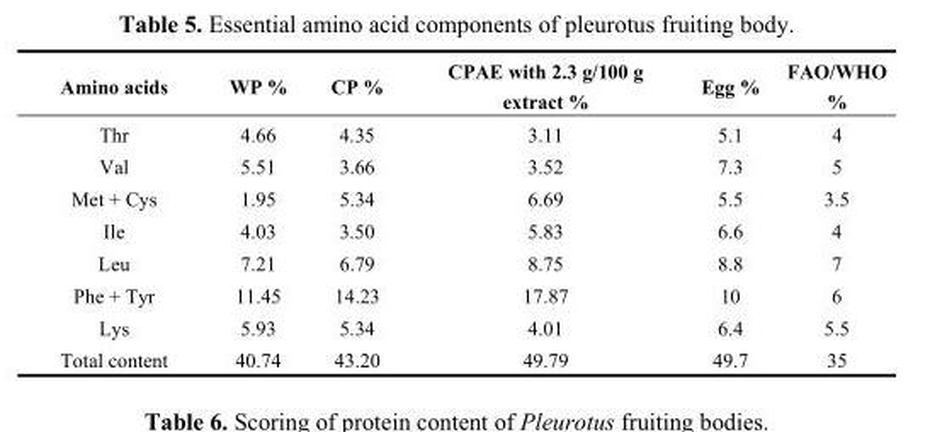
<table><thead><tr><td>Amino acids</td><td>WP %</td><td>CP %</td><td>CPAE with 2.3 g/100 g extract %</td><td>Egg %</td><td>FAO/WHO %</td></tr></thead><tbody><tr><td>Thr</td><td>4.66</td><td>4.35</td><td>3.11</td><td>5.1</td><td>4</td></tr><tr><td>Val</td><td>5.51</td><td>3.66</td><td>3.52</td><td>7.3</td><td>5</td></tr><tr><td>Met + Cys</td><td>1.95</td><td>5.34</td><td>6.69</td><td>5.5</td><td>3.5</td></tr><tr><td>Ile</td><td>4.03</td><td>3.50</td><td>5.83</td><td>6.6</td><td>4</td></tr><tr><td>Leu</td><td>7.21</td><td>6.79</td><td>8.75</td><td>8.8</td><td>7</td></tr><tr><td>Phe + Tyr</td><td>11.45</td><td>14.23</td><td>17.87</td><td>10</td><td>6</td></tr><tr><td>Lys</td><td>5.93</td><td>5.34</td><td>4.01</td><td>6.4</td><td>5.5</td></tr><tr><td>Total content</td><td>40.74</td><td>43.20</td><td>49.79</td><td>49.7</td><td>35</td></tr></tbody></table>